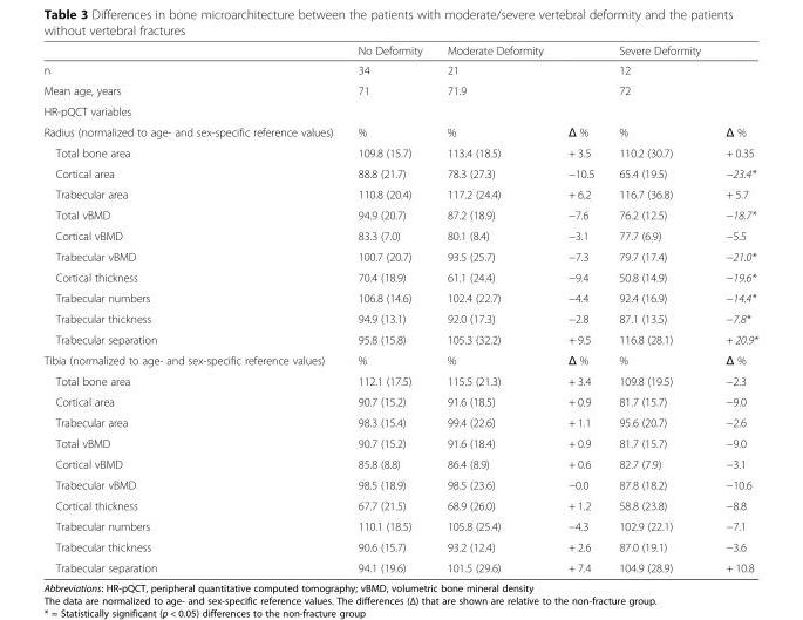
<table><thead><tr><td></td><td>No Deformity</td><td>Moderate Deformity</td><td></td><td>Severe Deformity</td><td></td></tr></thead><tbody><tr><td>n</td><td>34</td><td>21</td><td></td><td>12</td><td></td></tr><tr><td>Mean age, years</td><td>71</td><td>71.9</td><td></td><td>72</td><td></td></tr><tr><td colspan="6">HR-pQCT variables</td></tr><tr><td>Radius (normalized to age- and sex-specific reference values)</td><td>%</td><td>%</td><td>Δ %</td><td>%</td><td>Δ %</td></tr><tr><td>Total bone area</td><td>109.8 (15.7)</td><td>113.4 (18.5)</td><td>+ 3.5</td><td>110.2 (30.7)</td><td>+ 0.35</td></tr><tr><td>Cortical area</td><td>88.8 (21.7)</td><td>78.3 (27.3)</td><td>−10.5</td><td>65.4 (19.5)</td><td>−23.4*</td></tr><tr><td>Trabecular area</td><td>110.8 (20.4)</td><td>117.2 (24.4)</td><td>+ 6.2</td><td>116.7 (36.8)</td><td>+ 5.7</td></tr><tr><td>Total vBMD</td><td>94.9 (20.7)</td><td>87.2 (18.9)</td><td>−7.6</td><td>76.2 (12.5)</td><td>−18.7*</td></tr><tr><td>Cortical vBMD</td><td>83.3 (7.0)</td><td>80.1 (8.4)</td><td>−3.1</td><td>77.7 (6.9)</td><td>−5.5</td></tr><tr><td>Trabecular vBMD</td><td>100.7 (20.7)</td><td>93.5 (25.7)</td><td>−7.3</td><td>79.7 (17.4)</td><td>−21.0*</td></tr><tr><td>Cortical thickness</td><td>70.4 (18.9)</td><td>61.1 (24.4)</td><td>−9.4</td><td>50.8 (14.9)</td><td>−19.6*</td></tr><tr><td>Trabecular numbers</td><td>106.8 (14.6)</td><td>102.4 (22.7)</td><td>−4.4</td><td>92.4 (16.9)</td><td>−14.4*</td></tr><tr><td>Trabecular thickness</td><td>94.9 (13.1)</td><td>92.0 (17.3)</td><td>−2.8</td><td>87.1 (13.5)</td><td>−7.8*</td></tr><tr><td>Trabecular separation</td><td>95.8 (15.8)</td><td>105.3 (32.2)</td><td>+ 9.5</td><td>116.8 (28.1)</td><td>+ 20.9*</td></tr><tr><td>Tibia (normalized to age- and sex-specific reference values)</td><td>%</td><td>%</td><td>Δ %</td><td>%</td><td>Δ %</td></tr><tr><td>Total bone area</td><td>112.1 (17.5)</td><td>115.5 (21.3)</td><td>+ 3.4</td><td>109.8 (19.5)</td><td>−2.3</td></tr><tr><td>Cortical area</td><td>90.7 (15.2)</td><td>91.6 (18.5)</td><td>+ 0.9</td><td>81.7 (15.7)</td><td>−9.0</td></tr><tr><td>Trabecular area</td><td>98.3 (15.4)</td><td>99.4 (22.6)</td><td>+ 1.1</td><td>95.6 (20.7)</td><td>−2.6</td></tr><tr><td>Total vBMD</td><td>90.7 (15.2)</td><td>91.6 (18.4)</td><td>+ 0.9</td><td>81.7 (15.7)</td><td>−9.0</td></tr><tr><td>Cortical vBMD</td><td>85.8 (8.8)</td><td>86.4 (8.9)</td><td>+ 0.6</td><td>82.7 (7.9)</td><td>−3.1</td></tr><tr><td>Trabecular vBMD</td><td>98.5 (18.9)</td><td>98.5 (23.6)</td><td>−0.0</td><td>87.8 (18.2)</td><td>−10.6</td></tr><tr><td>Cortical thickness</td><td>67.7 (21.5)</td><td>68.9 (26.0)</td><td>+ 1.2</td><td>58.8 (23.8)</td><td>−8.8</td></tr><tr><td>Trabecular numbers</td><td>110.1 (18.5)</td><td>105.8 (25.4)</td><td>−4.3</td><td>102.9 (22.1)</td><td>−7.1</td></tr><tr><td>Trabecular thickness</td><td>90.6 (15.7)</td><td>93.2 (12.4)</td><td>+ 2.6</td><td>87.0 (19.1)</td><td>−3.6</td></tr><tr><td>Trabecular separation</td><td>94.1 (19.6)</td><td>101.5 (29.6)</td><td>+ 7.4</td><td>104.9 (28.9)</td><td>+ 10.8</td></tr></tbody></table>